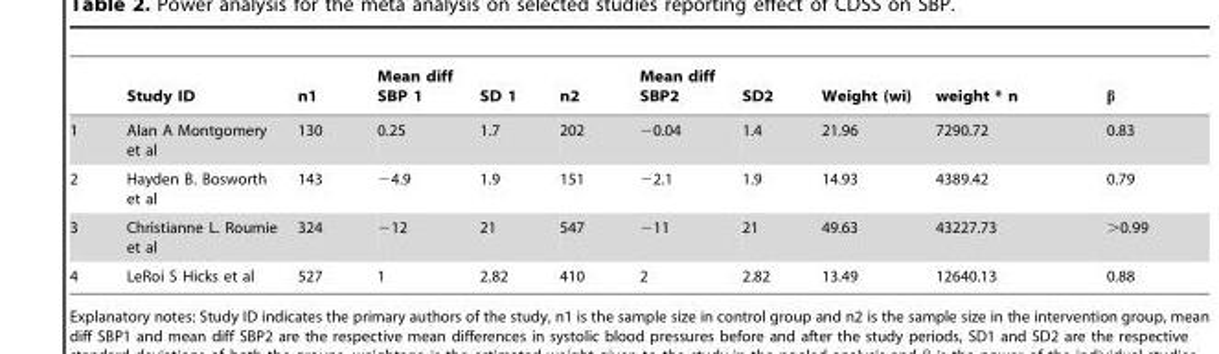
<table><thead><tr><td></td><td>Study ID</td><td>n1</td><td>Mean diff SBP 1</td><td>SD 1</td><td>n2</td><td>Mean diff SBP2</td><td>SD2</td><td>Weight (wi)</td><td>weight * n</td><td>β</td></tr></thead><tbody><tr><td>1</td><td>Alan A Montgomery et al</td><td>130</td><td>0.25</td><td>1.7</td><td>202</td><td>−0.04</td><td>1.4</td><td>21.96</td><td>7290.72</td><td>0.83</td></tr><tr><td>2</td><td>Hayden B. Bosworth et al</td><td>143</td><td>−4.9</td><td>1.9</td><td>151</td><td>−2.1</td><td>1.9</td><td>14.93</td><td>4389.42</td><td>0.79</td></tr><tr><td>3</td><td>Christianne L. Roumie et al</td><td>324</td><td>−12</td><td>21</td><td>547</td><td>−11</td><td>21</td><td>49.63</td><td>43227.73</td><td>&gt;0.99</td></tr><tr><td>4</td><td>LeRoi S Hicks et al</td><td>527</td><td>1</td><td>2.82</td><td>410</td><td>2</td><td>2.82</td><td>13.49</td><td>12640.13</td><td>0.88</td></tr></tbody></table>